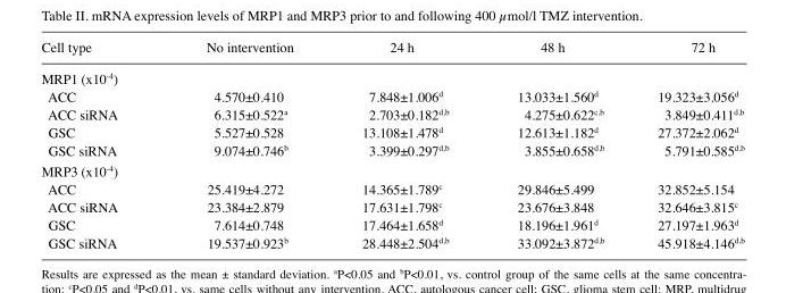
<table><thead><tr><td>Cell type</td><td>No intervention</td><td>24 h</td><td>48 h</td><td>72 h</td></tr></thead><tbody><tr><td colspan="5">MRP1 (x10<sup>-4</sup>)</td></tr><tr><td>ACC</td><td>4.570±0.410</td><td>7.848±1.006<sup>d</sup></td><td>13.033±1.560<sup>d</sup></td><td>19.323±3.056<sup>d</sup></td></tr><tr><td>ACC siRNA</td><td>6.315±0.522<sup>a</sup></td><td>2.703±0.182<sup>d,b</sup></td><td>4.275±0.622<sup>c,b</sup></td><td>3.849±0.411<sup>d,b</sup></td></tr><tr><td>GSC</td><td>5.527±0.528</td><td>13.108±1.478<sup>d</sup></td><td>12.613±1.182<sup>d</sup></td><td>27.372±2.062<sup>d</sup></td></tr><tr><td>GSC siRNA</td><td>9.074±0.746<sup>b</sup></td><td>3.399±0.297<sup>d,b</sup></td><td>3.855±0.658<sup>d,b</sup></td><td>5.791±0.585<sup>d,b</sup></td></tr><tr><td colspan="5">MRP3 (x10<sup>-4</sup>)</td></tr><tr><td>ACC</td><td>25.419±4.272</td><td>14.365±1.789<sup>c</sup></td><td>29.846±5.499</td><td>32.852±5.154</td></tr><tr><td>ACC siRNA</td><td>23.384±2.879</td><td>17.631±1.798<sup>c</sup></td><td>23.676±3.848</td><td>32.646±3.815<sup>c</sup></td></tr><tr><td>GSC</td><td>7.614±0.748</td><td>17.464±1.658<sup>d</sup></td><td>18.196±1.961<sup>d</sup></td><td>27.197±1.963<sup>d</sup></td></tr><tr><td>GSC siRNA</td><td>19.537±0.923<sup>b</sup></td><td>28.448±2.504<sup>d,b</sup></td><td>33.092±3.872<sup>d,b</sup></td><td>45.918±4.146<sup>d,b</sup></td></tr></tbody></table>